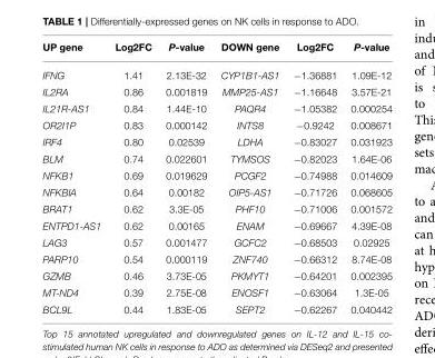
<table><thead><tr><td>UP gene</td><td>Log2FC</td><td>P-value</td><td>DOWN gene</td><td>Log2FC</td><td>P-value</td></tr></thead><tbody><tr><td>IFNG</td><td>1.41</td><td>2.13E-32</td><td>CYP1B1-AS1</td><td>−1.36881</td><td>1.09E-12</td></tr><tr><td>IL2RA</td><td>0.86</td><td>0.001819</td><td>MMP25-AS1</td><td>−1.16648</td><td>3.57E-21</td></tr><tr><td>IL21R-AS1</td><td>0.84</td><td>1.44E-10</td><td>PAQR4</td><td>−1.05382</td><td>0.000254</td></tr><tr><td>OR2I1P</td><td>0.83</td><td>0.000142</td><td>INTS8</td><td>−0.9242</td><td>0.008671</td></tr><tr><td>IRF4</td><td>0.80</td><td>0.02539</td><td>LDHA</td><td>−0.83027</td><td>0.031923</td></tr><tr><td>BLM</td><td>0.74</td><td>0.022601</td><td>TYMSOS</td><td>−0.82023</td><td>1.64E-06</td></tr><tr><td>NFKB1</td><td>0.69</td><td>0.019629</td><td>PCGF2</td><td>−0.74988</td><td>0.014609</td></tr><tr><td>NFKBIA</td><td>0.64</td><td>0.00182</td><td>OIP5-AS1</td><td>−0.71726</td><td>0.068605</td></tr><tr><td>BRAT1</td><td>0.62</td><td>3.3E-05</td><td>PHF10</td><td>−0.71006</td><td>0.001572</td></tr><tr><td>ENTPD1-AS1</td><td>0.62</td><td>0.00165</td><td>ENAM</td><td>−0.69667</td><td>4.39E-08</td></tr><tr><td>LAG3</td><td>0.57</td><td>0.001477</td><td>GCFC2</td><td>−0.68503</td><td>0.02925</td></tr><tr><td>PARP10</td><td>0.54</td><td>0.000119</td><td>ZNF740</td><td>−0.66312</td><td>8.74E-08</td></tr><tr><td>GZMB</td><td>0.46</td><td>3.73E-05</td><td>PKMYT1</td><td>−0.64201</td><td>0.002395</td></tr><tr><td>MT-ND4</td><td>0.39</td><td>2.75E-08</td><td>ENOSF1</td><td>−0.63064</td><td>1.3E-05</td></tr><tr><td>BCL9L</td><td>0.44</td><td>1.83E-05</td><td>SEPT2</td><td>−0.62267</td><td>0.040442</td></tr></tbody></table>